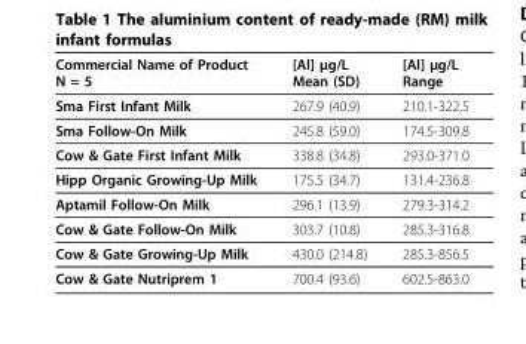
<table><thead><tr><td>Commercial Name of Product N = 5</td><td>[Al] μg/L Mean (SD)</td><td>[Al] μg/L Range</td></tr></thead><tbody><tr><td>Sma First Infant Milk</td><td>267.9 (40.9)</td><td>210.1-322.5</td></tr><tr><td>Sma Follow-On Milk</td><td>245.8 (59.0)</td><td>174.5-309.8</td></tr><tr><td>Cow &amp; Gate First Infant Milk</td><td>338.8 (34.8)</td><td>293.0-371.0</td></tr><tr><td>Hipp Organic Growing-Up Milk</td><td>175.5 (34.7)</td><td>131.4-236.8</td></tr><tr><td>Aptamil Follow-On Milk</td><td>296.1 (13.9)</td><td>279.3-314.2</td></tr><tr><td>Cow &amp; Gate Follow-On Milk</td><td>303.7 (10.8)</td><td>285.3-316.8</td></tr><tr><td>Cow &amp; Gate Growing-Up Milk</td><td>430.0 (214.8)</td><td>285.3-856.5</td></tr><tr><td>Cow &amp; Gate Nutriprem 1</td><td>700.4 (93.6)</td><td>602.5-863.0</td></tr></tbody></table>